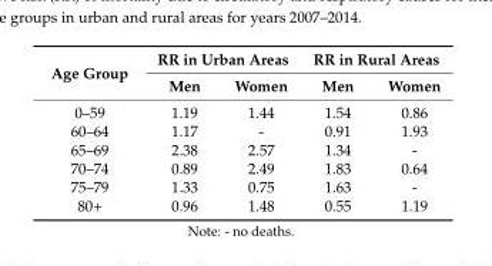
<table><thead><tr><td rowspan="2">Age Group</td><td colspan="2">RR in Urban Areas</td><td colspan="2">RR in Rural Areas</td></tr><tr><td>Men</td><td>Women</td><td>Men</td><td>Women</td></tr></thead><tbody><tr><td>0–59</td><td>1.19</td><td>1.44</td><td>1.54</td><td>0.86</td></tr><tr><td>60–64</td><td>1.17</td><td>-</td><td>0.91</td><td>1.93</td></tr><tr><td>65–69</td><td>2.38</td><td>2.57</td><td>1.34</td><td>-</td></tr><tr><td>70–74</td><td>0.89</td><td>2.49</td><td>1.83</td><td>0.64</td></tr><tr><td>75–79</td><td>1.33</td><td>0.75</td><td>1.63</td><td>-</td></tr><tr><td>80+</td><td>0.96</td><td>1.48</td><td>0.55</td><td>1.19</td></tr></tbody></table>